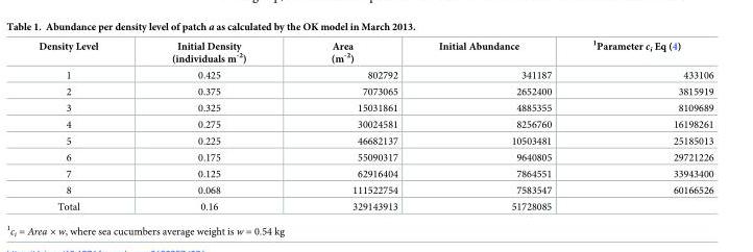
<table><thead><tr><td>Density Level</td><td>Initial Density (individuals m<sup>-2</sup>)</td><td>Area (m<sup>-2</sup>)</td><td>Initial Abundance</td><td><sup>1</sup>Parameter c<sub>i</sub> Eq (4)</td></tr></thead><tbody><tr><td>1</td><td>0.425</td><td>802792</td><td>341187</td><td>433106</td></tr><tr><td>2</td><td>0.375</td><td>7073065</td><td>2652400</td><td>3815919</td></tr><tr><td>3</td><td>0.325</td><td>15031861</td><td>4885355</td><td>8109689</td></tr><tr><td>4</td><td>0.275</td><td>30024581</td><td>8256760</td><td>16198261</td></tr><tr><td>5</td><td>0.225</td><td>46682137</td><td>10503481</td><td>25185013</td></tr><tr><td>6</td><td>0.175</td><td>55090317</td><td>9640805</td><td>29721226</td></tr><tr><td>7</td><td>0.125</td><td>62916404</td><td>7864551</td><td>33943400</td></tr><tr><td>8</td><td>0.068</td><td>111522754</td><td>7583547</td><td>60166526</td></tr><tr><td>Total</td><td>0.16</td><td>329143913</td><td>51728085</td><td></td></tr></tbody></table>